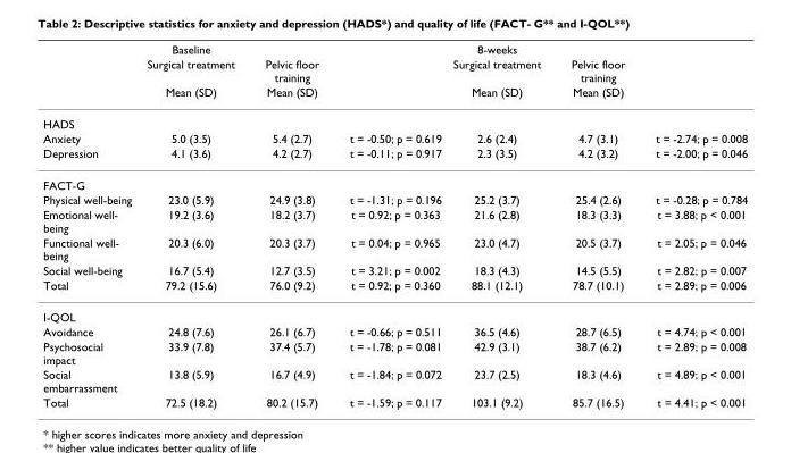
<table><thead><tr><td rowspan="3"></td><td rowspan="3">Baseline Surgical treatment Mean (SD)</td><td rowspan="3">Pelvic floor training Mean (SD)</td><td rowspan="3"></td><td rowspan="3">8-weeks Surgical treatment Mean (SD)</td><td rowspan="3">Pelvic floor training Mean (SD)</td><td rowspan="3"></td></tr><tr></tr><tr></tr></thead><tbody><tr><td colspan="7">HADS</td></tr><tr><td>Anxiety</td><td>5.0 (3.5)</td><td>5.4 (2.7)</td><td>t = -0.50; p = 0.619</td><td>2.6 (2.4)</td><td>4.7 (3.1)</td><td>t = -2.74; p = 0.008</td></tr><tr><td>Depression</td><td>4.1 (3.6)</td><td>4.2 (2.7)</td><td>t = -0.11; p = 0.917</td><td>2.3 (3.5)</td><td>4.2 (3.2)</td><td>t = -2.00; p = 0.046</td></tr><tr><td colspan="7">FACT-G</td></tr><tr><td>Physical well-being</td><td>23.0 (5.9)</td><td>24.9 (3.8)</td><td>t = -1.31; p = 0.196</td><td>25.2 (3.7)</td><td>25.4 (2.6)</td><td>t = -0.28; p = 0.784</td></tr><tr><td>Emotional well- being</td><td>19.2 (3.6)</td><td>18.2 (3.7)</td><td>t = 0.92; p = 0.363</td><td>21.6 (2.8)</td><td>18.3 (3.3)</td><td>t = 3.88; p &lt; 0.001</td></tr><tr><td>Functional well- being</td><td>20.3 (6.0)</td><td>20.3 (3.7)</td><td>t = 0.04; p = 0.965</td><td>23.0 (4.7)</td><td>20.5 (3.7)</td><td>t = 2.05; p = 0.046</td></tr><tr><td>Social well-being</td><td>16.7 (5.4)</td><td>12.7 (3.5)</td><td>t = 3.21; p = 0.002</td><td>18.3 (4.3)</td><td>14.5 (5.5)</td><td>t = 2.82; p = 0.007</td></tr><tr><td>Total</td><td>79.2 (15.6)</td><td>76.0 (9.2)</td><td>t = 0.92; p = 0.360</td><td>88.1 (12.1)</td><td>78.7 (10.1)</td><td>t = 2.89; p = 0.006</td></tr><tr><td colspan="7">I-QOL</td></tr><tr><td>Avoidance</td><td>24.8 (7.6)</td><td>26.1 (6.7)</td><td>t = -0.66; p = 0.511</td><td>36.5 (4.6)</td><td>28.7 (6.5)</td><td>t = 4.74; p &lt; 0.001</td></tr><tr><td>Psychosocial impact</td><td>33.9 (7.8)</td><td>37.4 (5.7)</td><td>t = -1.78; p = 0.081</td><td>42.9 (3.1)</td><td>38.7 (6.2)</td><td>t = 2.89; p = 0.008</td></tr><tr><td>Social embarrassment</td><td>13.8 (5.9)</td><td>16.7 (4.9)</td><td>t = -1.84; p = 0.072</td><td>23.7 (2.5)</td><td>18.3 (4.6)</td><td>t = 4.89; p &lt; 0.001</td></tr><tr><td>Total</td><td>72.5 (18.2)</td><td>80.2 (15.7)</td><td>t = -1.59; p = 0.117</td><td>103.1 (9.2)</td><td>85.7 (16.5)</td><td>t = 4.41; p &lt; 0.001</td></tr></tbody></table>